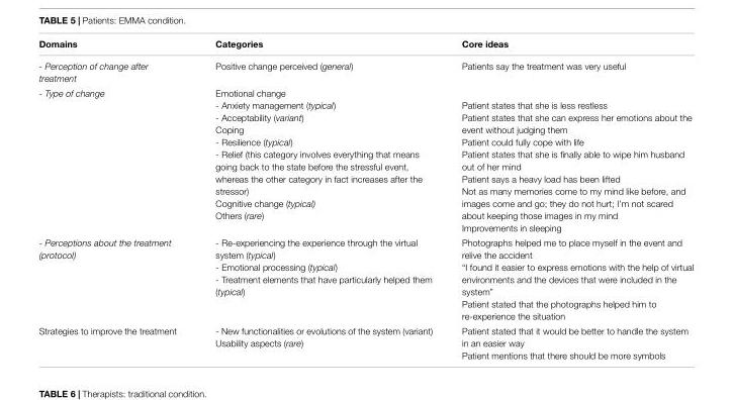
<table><thead><tr><td>Domains</td><td>Categories</td><td>Core ideas</td></tr></thead><tbody><tr><td>- Perception of change after treatment</td><td>Positive change perceived (general)</td><td>Patients say the treatment was very useful</td></tr><tr><td>- Type of change</td><td>Emotional change - Anxiety management (typical) - Acceptability (variant) Coping - Resilience (typical) - Relief (this category involves everything that means going back to the state before the stressful event, whereas the other category in fact increases after the stressor) Cognitive change (typical) Others (rare)</td><td>Patient states that she is less restless Patient states that she can express her emotions about the event without judging them Patient could fully cope with life Patient states that she is finally able to wipe him husband out of her mind Patient says a heavy load has been lifted Not as many memories come to my mind like before, and images come and go; they do not hurt; I’m not scared about keeping those images in my mind Improvements in sleeping</td></tr><tr><td>- Perceptions about the treatment (protocol)</td><td>- Re-experiencing the experience through the virtual system (typical) - Emotional processing (typical) - Treatment elements that have particularly helped them (typical)</td><td>Photographs helped me to place myself in the event and relive the accident “I found it easier to express emotions with the help of virtual environments and the devices that were included in the system” Patient stated that the photographs helped him to re-experience the situation</td></tr><tr><td>Strategies to improve the treatment</td><td>- New functionalities or evolutions of the system (variant) Usability aspects (rare)</td><td>Patient stated that it would be better to handle the system in an easier way Patient mentions that there should be more symbols</td></tr></tbody></table>